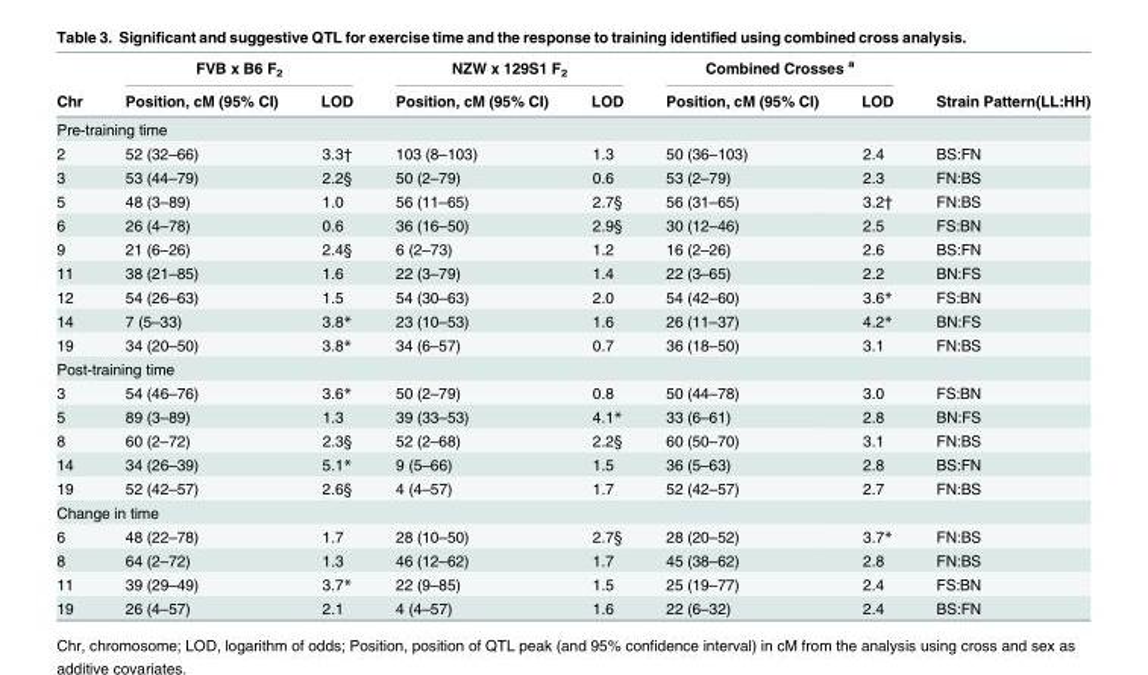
<table><thead><tr><td rowspan="2">Chr</td><td colspan="2">FVB x B6 F<sub>2</sub></td><td colspan="2">NZW x 129S1 F<sub>2</sub></td><td colspan="2">Combined Crosses <sup>a</sup></td><td rowspan="2">Strain Pattern(LL:HH)</td></tr><tr><td>Position, cM (95% CI)</td><td>LOD</td><td>Position, cM (95% CI)</td><td>LOD</td><td>Position, cM (95% CI)</td><td>LOD</td></tr></thead><tbody><tr><td colspan="8">Pre-training time</td></tr><tr><td>2</td><td>52 (32–66)</td><td>3.3†</td><td>103 (8–103)</td><td>1.3</td><td>50 (36–103)</td><td>2.4</td><td>BS:FN</td></tr><tr><td>3</td><td>53 (44–79)</td><td>2.2§</td><td>50 (2–79)</td><td>0.6</td><td>53 (2–79)</td><td>2.3</td><td>FN:BS</td></tr><tr><td>5</td><td>48 (3–89)</td><td>1.0</td><td>56 (11–65)</td><td>2.7§</td><td>56 (31–65)</td><td>3.2†</td><td>FN:BS</td></tr><tr><td>6</td><td>26 (4–78)</td><td>0.6</td><td>36 (16–50)</td><td>2.9§</td><td>30 (12–46)</td><td>2.5</td><td>FS:BN</td></tr><tr><td>9</td><td>21 (6–26)</td><td>2.4§</td><td>6 (2–73)</td><td>1.2</td><td>16 (2–26)</td><td>2.6</td><td>BS:FN</td></tr><tr><td>11</td><td>38 (21–85)</td><td>1.6</td><td>22 (3–79)</td><td>1.4</td><td>22 (3–65)</td><td>2.2</td><td>BN:FS</td></tr><tr><td>12</td><td>54 (26–63)</td><td>1.5</td><td>54 (30–63)</td><td>2.0</td><td>54 (42–60)</td><td>3.6*</td><td>FS:BN</td></tr><tr><td>14</td><td>7 (5–33)</td><td>3.8*</td><td>23 (10–53)</td><td>1.6</td><td>26 (11–37)</td><td>4.2*</td><td>BN:FS</td></tr><tr><td>19</td><td>34 (20–50)</td><td>3.8*</td><td>34 (6–57)</td><td>0.7</td><td>36 (18–50)</td><td>3.1</td><td>FN:BS</td></tr><tr><td colspan="8">Post-training time</td></tr><tr><td>3</td><td>54 (46–76)</td><td>3.6*</td><td>50 (2–79)</td><td>0.8</td><td>50 (44–78)</td><td>3.0</td><td>FS:BN</td></tr><tr><td>5</td><td>89 (3–89)</td><td>1.3</td><td>39 (33–53)</td><td>4.1*</td><td>33 (6–61)</td><td>2.8</td><td>BN:FS</td></tr><tr><td>8</td><td>60 (2–72)</td><td>2.3§</td><td>52 (2–68)</td><td>2.2§</td><td>60 (50–70)</td><td>3.1</td><td>FN:BS</td></tr><tr><td>14</td><td>34 (26–39)</td><td>5.1*</td><td>9 (5–66)</td><td>1.5</td><td>36 (5–63)</td><td>2.8</td><td>BS:FN</td></tr><tr><td>19</td><td>52 (42–57)</td><td>2.6§</td><td>4 (4–57)</td><td>1.7</td><td>52 (42–57)</td><td>2.7</td><td>FN:BS</td></tr><tr><td colspan="8">Change in time</td></tr><tr><td>6</td><td>48 (22–78)</td><td>1.7</td><td>28 (10–50)</td><td>2.7§</td><td>28 (20–52)</td><td>3.7*</td><td>FN:BS</td></tr><tr><td>8</td><td>64 (2–72)</td><td>1.3</td><td>46 (12–62)</td><td>1.7</td><td>45 (38–62)</td><td>2.8</td><td>FN:BS</td></tr><tr><td>11</td><td>39 (29–49)</td><td>3.7*</td><td>22 (9–85)</td><td>1.5</td><td>25 (19–77)</td><td>2.4</td><td>FS:BN</td></tr><tr><td>19</td><td>26 (4–57)</td><td>2.1</td><td>4 (4–57)</td><td>1.6</td><td>22 (6–32)</td><td>2.4</td><td>BS:FN</td></tr></tbody></table>